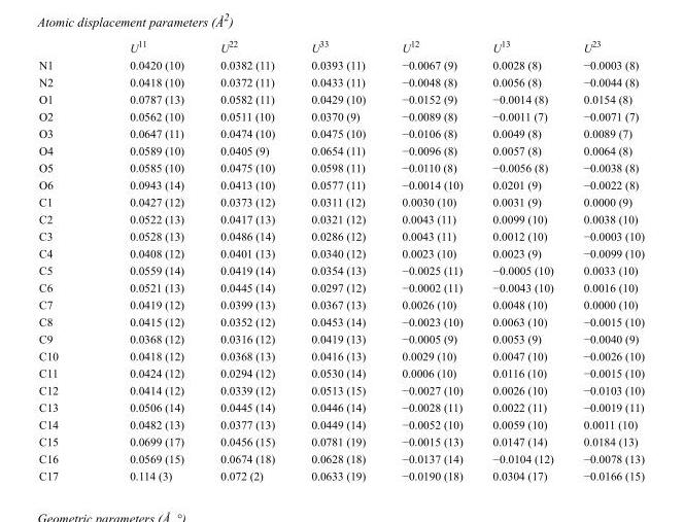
<table><thead><tr><td></td><td>U<sup>11</sup></td><td>U<sup>22</sup></td><td>U<sup>33</sup></td><td>U<sup>12</sup></td><td>U<sup>13</sup></td><td>U<sup>23</sup></td></tr></thead><tbody><tr><td>N1</td><td>0.0420 (10)</td><td>0.0382 (11)</td><td>0.0393 (11)</td><td>−0.0067 (9)</td><td>0.0028 (8)</td><td>−0.0003 (8)</td></tr><tr><td>N2</td><td>0.0418 (10)</td><td>0.0372 (11)</td><td>0.0433 (11)</td><td>−0.0048 (8)</td><td>0.0056 (8)</td><td>−0.0044 (8)</td></tr><tr><td>O1</td><td>0.0787 (13)</td><td>0.0582 (11)</td><td>0.0429 (10)</td><td>−0.0152 (9)</td><td>−0.0014 (8)</td><td>0.0154 (8)</td></tr><tr><td>O2</td><td>0.0562 (10)</td><td>0.0511 (10)</td><td>0.0370 (9)</td><td>−0.0089 (8)</td><td>−0.0011 (7)</td><td>−0.0071 (7)</td></tr><tr><td>O3</td><td>0.0647 (11)</td><td>0.0474 (10)</td><td>0.0475 (10)</td><td>−0.0106 (8)</td><td>0.0049 (8)</td><td>0.0089 (7)</td></tr><tr><td>O4</td><td>0.0589 (10)</td><td>0.0405 (9)</td><td>0.0654 (11)</td><td>−0.0096 (8)</td><td>0.0057 (8)</td><td>0.0064 (8)</td></tr><tr><td>O5</td><td>0.0585 (10)</td><td>0.0475 (10)</td><td>0.0598 (11)</td><td>−0.0110 (8)</td><td>−0.0056 (8)</td><td>−0.0038 (8)</td></tr><tr><td>O6</td><td>0.0943 (14)</td><td>0.0413 (10)</td><td>0.0577 (11)</td><td>−0.0014 (10)</td><td>0.0201 (9)</td><td>−0.0022 (8)</td></tr><tr><td>C1</td><td>0.0427 (12)</td><td>0.0373 (12)</td><td>0.0311 (12)</td><td>0.0030 (10)</td><td>0.0031 (9)</td><td>0.0000 (9)</td></tr><tr><td>C2</td><td>0.0522 (13)</td><td>0.0417 (13)</td><td>0.0321 (12)</td><td>0.0043 (11)</td><td>0.0099 (10)</td><td>0.0038 (10)</td></tr><tr><td>C3</td><td>0.0528 (13)</td><td>0.0486 (14)</td><td>0.0286 (12)</td><td>0.0043 (11)</td><td>0.0012 (10)</td><td>−0.0003 (10)</td></tr><tr><td>C4</td><td>0.0408 (12)</td><td>0.0401 (13)</td><td>0.0340 (12)</td><td>0.0023 (10)</td><td>0.0023 (9)</td><td>−0.0099 (10)</td></tr><tr><td>C5</td><td>0.0559 (14)</td><td>0.0419 (14)</td><td>0.0354 (13)</td><td>−0.0025 (11)</td><td>−0.0005 (10)</td><td>0.0033 (10)</td></tr><tr><td>C6</td><td>0.0521 (13)</td><td>0.0445 (14)</td><td>0.0297 (12)</td><td>−0.0002 (11)</td><td>−0.0043 (10)</td><td>0.0016 (10)</td></tr><tr><td>C7</td><td>0.0419 (12)</td><td>0.0399 (13)</td><td>0.0367 (13)</td><td>0.0026 (10)</td><td>0.0048 (10)</td><td>0.0000 (10)</td></tr><tr><td>C8</td><td>0.0415 (12)</td><td>0.0352 (12)</td><td>0.0453 (14)</td><td>−0.0023 (10)</td><td>0.0063 (10)</td><td>−0.0015 (10)</td></tr><tr><td>C9</td><td>0.0368 (12)</td><td>0.0316 (12)</td><td>0.0419 (13)</td><td>−0.0005 (9)</td><td>0.0053 (9)</td><td>−0.0040 (9)</td></tr><tr><td>C10</td><td>0.0418 (12)</td><td>0.0368 (13)</td><td>0.0416 (13)</td><td>0.0029 (10)</td><td>0.0047 (10)</td><td>−0.0026 (10)</td></tr><tr><td>C11</td><td>0.0424 (12)</td><td>0.0294 (12)</td><td>0.0530 (14)</td><td>0.0006 (10)</td><td>0.0116 (10)</td><td>−0.0015 (10)</td></tr><tr><td>C12</td><td>0.0414 (12)</td><td>0.0339 (12)</td><td>0.0513 (15)</td><td>−0.0027 (10)</td><td>0.0026 (10)</td><td>−0.0103 (10)</td></tr><tr><td>C13</td><td>0.0506 (14)</td><td>0.0445 (14)</td><td>0.0446 (14)</td><td>−0.0028 (11)</td><td>0.0022 (11)</td><td>−0.0019 (11)</td></tr><tr><td>C14</td><td>0.0482 (13)</td><td>0.0377 (13)</td><td>0.0449 (14)</td><td>−0.0052 (10)</td><td>0.0059 (10)</td><td>0.0011 (10)</td></tr><tr><td>C15</td><td>0.0699 (17)</td><td>0.0456 (15)</td><td>0.0781 (19)</td><td>−0.0015 (13)</td><td>0.0147 (14)</td><td>0.0184 (13)</td></tr><tr><td>C16</td><td>0.0569 (15)</td><td>0.0674 (18)</td><td>0.0628 (18)</td><td>−0.0137 (14)</td><td>−0.0104 (12)</td><td>−0.0078 (13)</td></tr><tr><td>C17</td><td>0.114 (3)</td><td>0.072 (2)</td><td>0.0633 (19)</td><td>−0.0190 (18)</td><td>0.0304 (17)</td><td>−0.0166 (15)</td></tr></tbody></table>